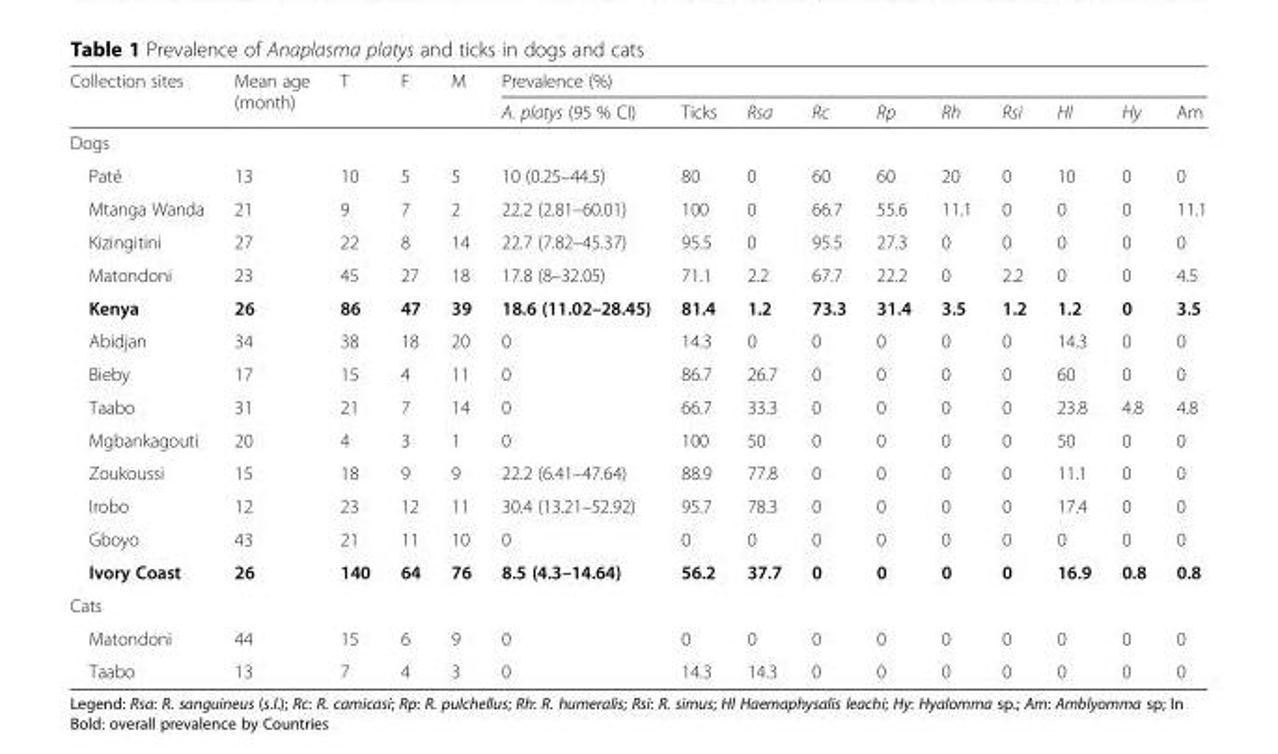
<table><thead><tr><td rowspan="2">Collection sites</td><td rowspan="2">Mean age (month)</td><td rowspan="2">T</td><td rowspan="2">F</td><td rowspan="2">M</td><td colspan="10">Prevalence (%)</td></tr><tr><td>A. platys (95 % CI)</td><td>Ticks</td><td>Rsa</td><td>Rc</td><td>Rp</td><td>Rh</td><td>Rsi</td><td>Hl</td><td>Hy</td><td>Am</td></tr></thead><tbody><tr><td colspan="15">Dogs</td></tr><tr><td>Paté</td><td>13</td><td>10</td><td>5</td><td>5</td><td>10 (0.25–44.5)</td><td>80</td><td>0</td><td>60</td><td>60</td><td>20</td><td>0</td><td>10</td><td>0</td><td>0</td></tr><tr><td>Mtanga Wanda</td><td>21</td><td>9</td><td>7</td><td>2</td><td>22.2 (2.81–60.01)</td><td>100</td><td>0</td><td>66.7</td><td>55.6</td><td>11.1</td><td>0</td><td>0</td><td>0</td><td>11.1</td></tr><tr><td>Kizingitini</td><td>27</td><td>22</td><td>8</td><td>14</td><td>22.7 (7.82–45.37)</td><td>95.5</td><td>0</td><td>95.5</td><td>27.3</td><td>0</td><td>0</td><td>0</td><td>0</td><td>0</td></tr><tr><td>Matondoni</td><td>23</td><td>45</td><td>27</td><td>18</td><td>17.8 (8–32.05)</td><td>71.1</td><td>2.2</td><td>67.7</td><td>22.2</td><td>0</td><td>2.2</td><td>0</td><td>0</td><td>4.5</td></tr><tr><td>Kenya</td><td>26</td><td>86</td><td>47</td><td>39</td><td>18.6 (11.02–28.45)</td><td>81.4</td><td>1.2</td><td>73.3</td><td>31.4</td><td>3.5</td><td>1.2</td><td>1.2</td><td>0</td><td>3.5</td></tr><tr><td>Abidjan</td><td>34</td><td>38</td><td>18</td><td>20</td><td>0</td><td>14.3</td><td>0</td><td>0</td><td>0</td><td>0</td><td>0</td><td>14.3</td><td>0</td><td>0</td></tr><tr><td>Bieby</td><td>17</td><td>15</td><td>4</td><td>11</td><td>0</td><td>86.7</td><td>26.7</td><td>0</td><td>0</td><td>0</td><td>0</td><td>60</td><td>0</td><td>0</td></tr><tr><td>Taabo</td><td>31</td><td>21</td><td>7</td><td>14</td><td>0</td><td>66.7</td><td>33.3</td><td>0</td><td>0</td><td>0</td><td>0</td><td>23.8</td><td>4.8</td><td>4.8</td></tr><tr><td>Mgbankagouti</td><td>20</td><td>4</td><td>3</td><td>1</td><td>0</td><td>100</td><td>50</td><td>0</td><td>0</td><td>0</td><td>0</td><td>50</td><td>0</td><td>0</td></tr><tr><td>Zoukoussi</td><td>15</td><td>18</td><td>9</td><td>9</td><td>22.2 (6.41–47.64)</td><td>88.9</td><td>77.8</td><td>0</td><td>0</td><td>0</td><td>0</td><td>11.1</td><td>0</td><td>0</td></tr><tr><td>Irobo</td><td>12</td><td>23</td><td>12</td><td>11</td><td>30.4 (13.21–52.92)</td><td>95.7</td><td>78.3</td><td>0</td><td>0</td><td>0</td><td>0</td><td>17.4</td><td>0</td><td>0</td></tr><tr><td>Gboyo</td><td>43</td><td>21</td><td>11</td><td>10</td><td>0</td><td>0</td><td>0</td><td>0</td><td>0</td><td>0</td><td>0</td><td>0</td><td>0</td><td>0</td></tr><tr><td>Ivory Coast</td><td>26</td><td>140</td><td>64</td><td>76</td><td>8.5 (4.3–14.64)</td><td>56.2</td><td>37.7</td><td>0</td><td>0</td><td>0</td><td>0</td><td>16.9</td><td>0.8</td><td>0.8</td></tr><tr><td colspan="15">Cats</td></tr><tr><td>Matondoni</td><td>44</td><td>15</td><td>6</td><td>9</td><td>0</td><td>0</td><td>0</td><td>0</td><td>0</td><td>0</td><td>0</td><td>0</td><td>0</td><td>0</td></tr><tr><td>Taabo</td><td>13</td><td>7</td><td>4</td><td>3</td><td>0</td><td>14.3</td><td>14.3</td><td>0</td><td>0</td><td>0</td><td>0</td><td>0</td><td>0</td><td>0</td></tr></tbody></table>